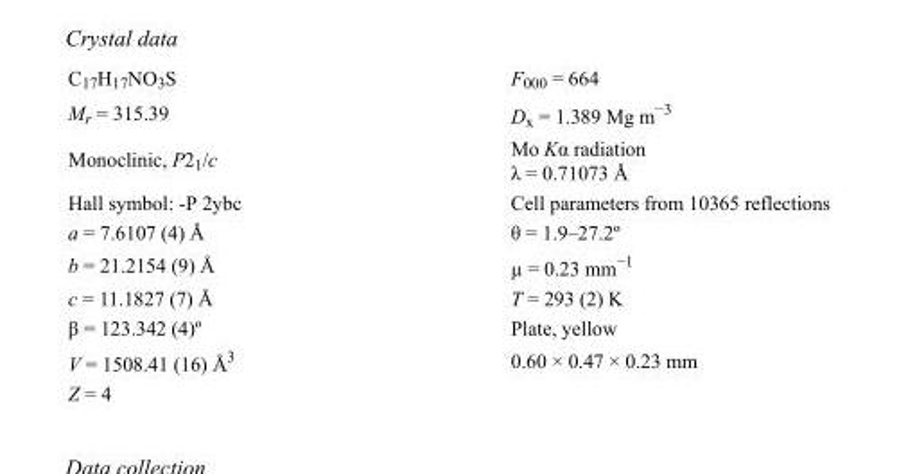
<table><tbody><tr><td>C<sub>17</sub>H<sub>17</sub>NO<sub>3</sub>S</td><td>F<sub>000</sub> = 664</td></tr><tr><td>M<sub>r</sub> = 315.39</td><td>D<sub>x</sub> = 1.389 Mg m<sup>−3</sup></td></tr><tr><td>Monoclinic, P2<sub>1</sub>/c</td><td>Mo Kα radiation λ = 0.71073 Å</td></tr><tr><td>Hall symbol: -P 2ybc</td><td>Cell parameters from 10365 reflections</td></tr><tr><td>a = 7.6107 (4) Å</td><td>θ = 1.9–27.2º</td></tr><tr><td>b = 21.2154 (9) Å</td><td>µ = 0.23 mm<sup>−1</sup></td></tr><tr><td>c = 11.1827 (7) Å</td><td>T = 293 (2) K</td></tr><tr><td>β = 123.342 (4)º</td><td>Plate, yellow</td></tr><tr><td>V = 1508.41 (16) Å<sup>3</sup></td><td>0.60 × 0.47 × 0.23 mm</td></tr><tr><td>Z = 4</td><td></td></tr></tbody></table>